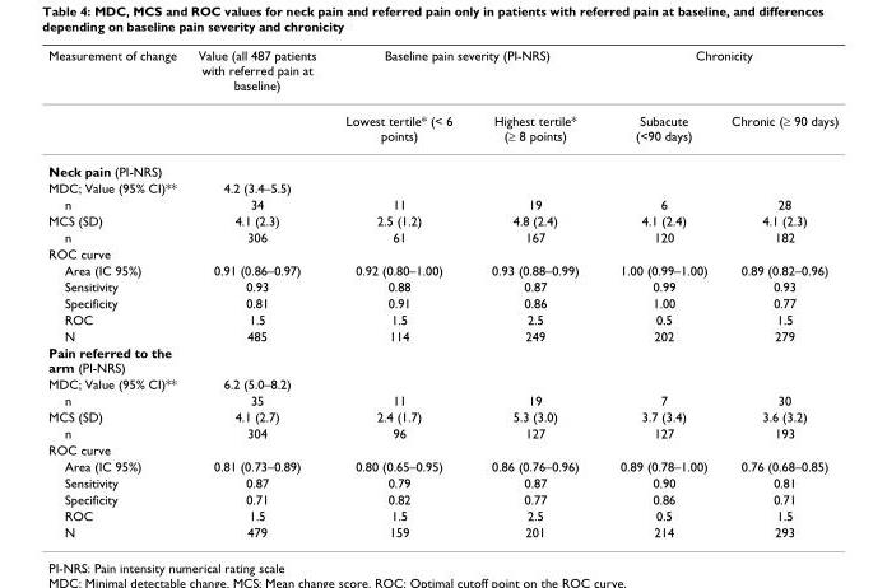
<table><thead><tr><td rowspan="2">Measurement of change</td><td rowspan="2">Value (all 487 patients with referred pain at baseline)</td><td colspan="2">Baseline pain severity (PI-NRS)</td><td colspan="2">Chronicity</td></tr><tr><td>Lowest tertile* (&lt; 6 points)</td><td>Highest tertile* (≥ 8 points)</td><td>Subacute (&lt;90 days)</td><td>Chronic (≥ 90 days)</td></tr></thead><tbody><tr><td colspan="6">Neck pain (PI-NRS)</td></tr><tr><td>MDC; Value (95% CI)**</td><td>4.2 (3.4–5.5)</td><td></td><td></td><td></td><td></td></tr><tr><td>n</td><td>34</td><td>11</td><td>19</td><td>6</td><td>28</td></tr><tr><td>MCS (SD)</td><td>4.1 (2.3)</td><td>2.5 (1.2)</td><td>4.8 (2.4)</td><td>4.1 (2.4)</td><td>4.1 (2.3)</td></tr><tr><td>n</td><td>306</td><td>61</td><td>167</td><td>120</td><td>182</td></tr><tr><td colspan="6">ROC curve</td></tr><tr><td>Area (IC 95%)</td><td>0.91 (0.86–0.97)</td><td>0.92 (0.80–1.00)</td><td>0.93 (0.88–0.99)</td><td>1.00 (0.99–1.00)</td><td>0.89 (0.82–0.96)</td></tr><tr><td>Sensitivity</td><td>0.93</td><td>0.88</td><td>0.87</td><td>0.99</td><td>0.93</td></tr><tr><td>Specificity</td><td>0.81</td><td>0.91</td><td>0.86</td><td>1.00</td><td>0.77</td></tr><tr><td>ROC</td><td>1.5</td><td>1.5</td><td>2.5</td><td>0.5</td><td>1.5</td></tr><tr><td>N</td><td>485</td><td>114</td><td>249</td><td>202</td><td>279</td></tr><tr><td colspan="6">Pain referred to the arm (PI-NRS)</td></tr><tr><td>MDC; Value (95% CI)**</td><td>6.2 (5.0–8.2)</td><td></td><td></td><td></td><td></td></tr><tr><td>n</td><td>35</td><td>11</td><td>19</td><td>7</td><td>30</td></tr><tr><td>MCS (SD)</td><td>4.1 (2.7)</td><td>2.4 (1.7)</td><td>5.3 (3.0)</td><td>3.7 (3.4)</td><td>3.6 (3.2)</td></tr><tr><td>n</td><td>304</td><td>96</td><td>127</td><td>127</td><td>193</td></tr><tr><td colspan="6">ROC curve</td></tr><tr><td>Area (IC 95%)</td><td>0.81 (0.73–0.89)</td><td>0.80 (0.65–0.95)</td><td>0.86 (0.76–0.96)</td><td>0.89 (0.78–1.00)</td><td>0.76 (0.68–0.85)</td></tr><tr><td>Sensitivity</td><td>0.87</td><td>0.79</td><td>0.87</td><td>0.90</td><td>0.81</td></tr><tr><td>Specificity</td><td>0.71</td><td>0.82</td><td>0.77</td><td>0.86</td><td>0.71</td></tr><tr><td>ROC</td><td>1.5</td><td>1.5</td><td>2.5</td><td>0.5</td><td>1.5</td></tr><tr><td>N</td><td>479</td><td>159</td><td>201</td><td>214</td><td>293</td></tr></tbody></table>